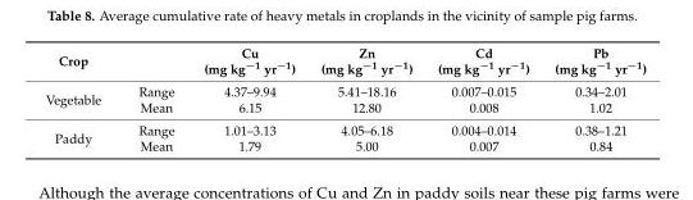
<table><thead><tr><td>Crop</td><td></td><td>Cu (mg kg<sup>−1</sup> yr<sup>−1</sup>)</td><td>Zn (mg kg<sup>−1</sup> yr<sup>−1</sup>)</td><td>Cd (mg kg<sup>−1</sup> yr<sup>−1</sup>)</td><td>Pb (mg kg<sup>−1</sup> yr<sup>−1</sup>)</td></tr></thead><tbody><tr><td>Vegetable</td><td>Range Mean</td><td>4.37–9.94 6.15</td><td>5.41–18.16 12.80</td><td>0.007–0.015 0.008</td><td>0.34–2.01 1.02</td></tr><tr><td>Paddy</td><td>Range Mean</td><td>1.01–3.13 1.79</td><td>4.05–6.18 5.00</td><td>0.004–0.014 0.007</td><td>0.38–1.21 0.84</td></tr></tbody></table>